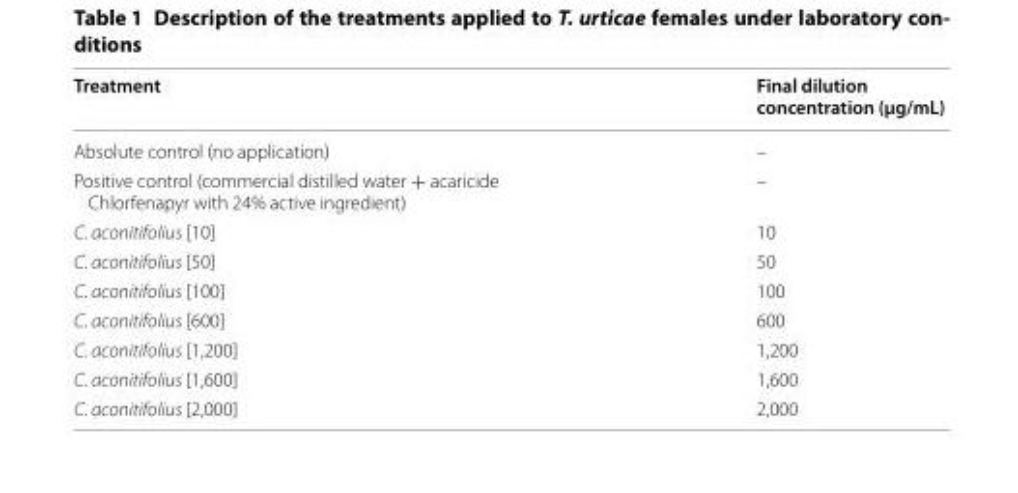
<table><thead><tr><td>Treatment</td><td>Final dilution concentration (µg/mL)</td></tr></thead><tbody><tr><td>Absolute control (no application)</td><td>–</td></tr><tr><td>Positive control (commercial distilled water + acaricide Chlorfenapyr with 24% active ingredient)</td><td>–</td></tr><tr><td>C. aconitifolius [10]</td><td>10</td></tr><tr><td>C. aconitifolius [50]</td><td>50</td></tr><tr><td>C. aconitifolius [100]</td><td>100</td></tr><tr><td>C. aconitifolius [600]</td><td>600</td></tr><tr><td>C. aconitifolius [1,200]</td><td>1,200</td></tr><tr><td>C. aconitifolius [1,600]</td><td>1,600</td></tr><tr><td>C. aconitifolius [2,000]</td><td>2,000</td></tr></tbody></table>